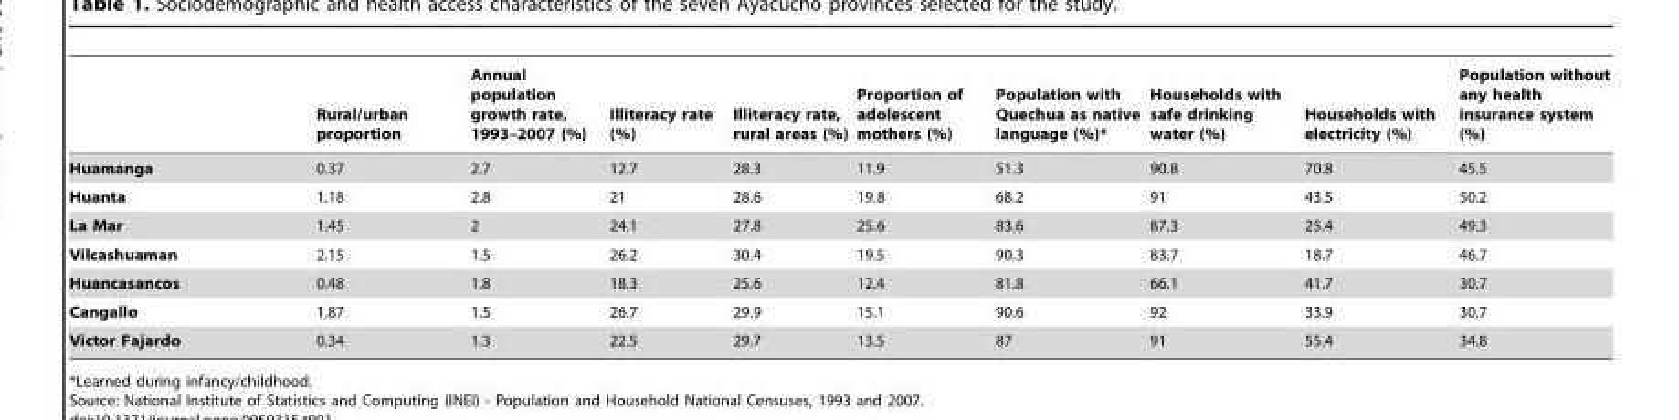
<table><thead><tr><td></td><td>Rural/urban proportion</td><td>Annual population growth rate, 1993–2007 (%)</td><td>Illiteracy rate (%)</td><td>Illiteracy rate, rural areas (%)</td><td>Proportion of adolescent mothers (%)</td><td>Population with Quechua as native language (%)*</td><td>Households with safe drinking water (%)</td><td>Households with electricity (%)</td><td>Population without any health insurance system (%)</td></tr></thead><tbody><tr><td>Huamanga</td><td>0.37</td><td>2.7</td><td>12.7</td><td>28.3</td><td>11.9</td><td>51.3</td><td>90.8</td><td>70.8</td><td>45.5</td></tr><tr><td>Huanta</td><td>1.18</td><td>2.8</td><td>21</td><td>28.6</td><td>19.8</td><td>68.2</td><td>91</td><td>43.5</td><td>50.2</td></tr><tr><td>La Mar</td><td>1.45</td><td>2</td><td>24.1</td><td>27.8</td><td>25.6</td><td>83.6</td><td>87.3</td><td>25.4</td><td>49.3</td></tr><tr><td>Vilcashuaman</td><td>2.15</td><td>1.5</td><td>26.2</td><td>30.4</td><td>19.5</td><td>90.3</td><td>83.7</td><td>18.7</td><td>46.7</td></tr><tr><td>Huancasancos</td><td>0.48</td><td>1.8</td><td>18.3</td><td>25.6</td><td>12.4</td><td>81.8</td><td>66.1</td><td>41.7</td><td>30.7</td></tr><tr><td>Cangallo</td><td>1.87</td><td>1.5</td><td>26.7</td><td>29.9</td><td>15.1</td><td>90.6</td><td>92</td><td>33.9</td><td>30.7</td></tr><tr><td>Victor Fajardo</td><td>0.34</td><td>1.3</td><td>22.5</td><td>29.7</td><td>13.5</td><td>87</td><td>91</td><td>55.4</td><td>34.8</td></tr></tbody></table>